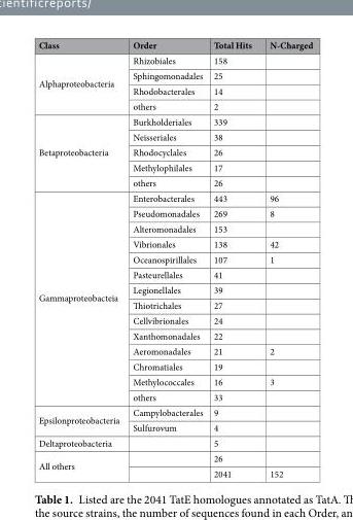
<table><thead><tr><td>Class</td><td>Order</td><td>Total Hits</td><td>N-Charged</td></tr></thead><tbody><tr><td rowspan="4">Alphaproteobacteria</td><td>Rhizobiales</td><td>158</td><td></td></tr><tr><td>Sphingomonadales</td><td>25</td><td></td></tr><tr><td>Rhodobacterales</td><td>14</td><td></td></tr><tr><td>others</td><td>2</td><td></td></tr><tr><td rowspan="5">Betaproteobacteria</td><td>Burkholderiales</td><td>339</td><td></td></tr><tr><td>Neisseriales</td><td>38</td><td></td></tr><tr><td>Rhodocyclales</td><td>26</td><td></td></tr><tr><td>Methylophilales</td><td>17</td><td></td></tr><tr><td>others</td><td>26</td><td></td></tr><tr><td rowspan="14">Gammaproteobacteia</td><td>Enterobacterales</td><td>443</td><td>96</td></tr><tr><td>Pseudomonadales</td><td>269</td><td>8</td></tr><tr><td>Alteromonadales</td><td>153</td><td></td></tr><tr><td>Vibrionales</td><td>138</td><td>42</td></tr><tr><td>Oceanospirillales</td><td>107</td><td>1</td></tr><tr><td>Pasteurellales</td><td>41</td><td></td></tr><tr><td>Legionellales</td><td>39</td><td></td></tr><tr><td>Thiotrichales</td><td>27</td><td></td></tr><tr><td>Cellvibrionales</td><td>24</td><td></td></tr><tr><td>Xanthomonadales</td><td>22</td><td></td></tr><tr><td>Aeromonadales</td><td>21</td><td>2</td></tr><tr><td>Chromatiales</td><td>19</td><td></td></tr><tr><td>Methylococcales</td><td>16</td><td>3</td></tr><tr><td>others</td><td>33</td><td></td></tr><tr><td rowspan="2">Epsilonproteobacteria</td><td>Campylobacterales</td><td>9</td><td></td></tr><tr><td>Sulfurovum</td><td>4</td><td></td></tr><tr><td>Deltaproteobacteria</td><td></td><td>5</td><td></td></tr><tr><td rowspan="2">All others</td><td></td><td>26</td><td></td></tr><tr><td></td><td>2041</td><td>152</td></tr></tbody></table>